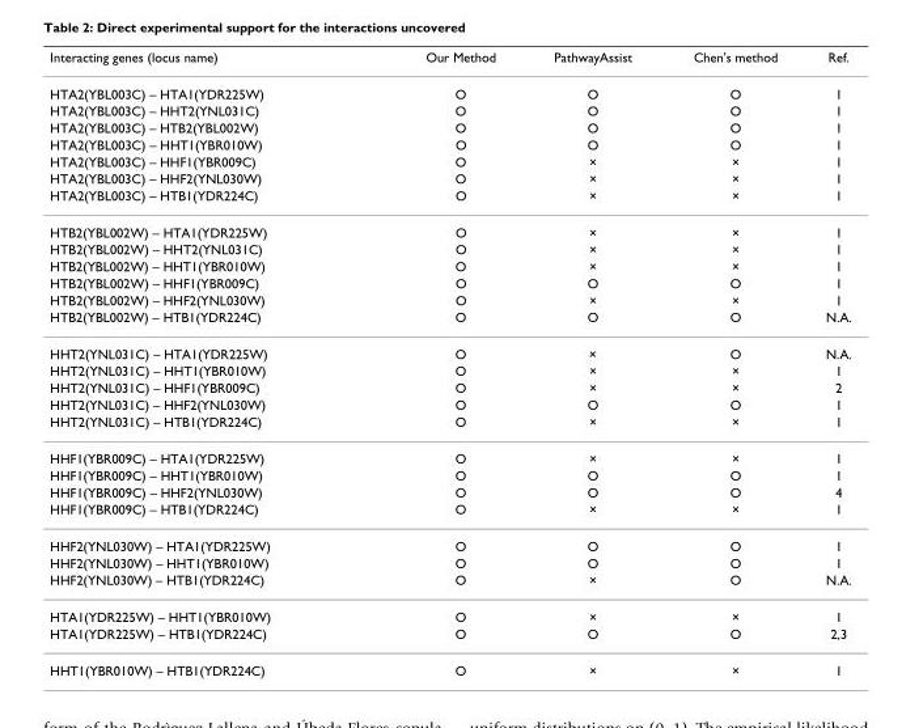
<table><thead><tr><td>Interacting genes (locus name)</td><td>Our Method</td><td>PathwayAssist</td><td>Chen&#x27;s method</td><td>Ref.</td></tr></thead><tbody><tr><td>HTA2(YBL003C) – HTA1(YDR225W)</td><td>O</td><td>O</td><td>O</td><td>1</td></tr><tr><td>HTA2(YBL003C) – HHT2(YNL031C)</td><td>O</td><td>O</td><td>O</td><td>1</td></tr><tr><td>HTA2(YBL003C) – HTB2(YBL002W)</td><td>O</td><td>O</td><td>O</td><td>1</td></tr><tr><td>HTA2(YBL003C) – HHT1(YBR010W)</td><td>O</td><td>O</td><td>O</td><td>1</td></tr><tr><td>HTA2(YBL003C) – HHF1(YBR009C)</td><td>O</td><td>×</td><td>×</td><td>1</td></tr><tr><td>HTA2(YBL003C) – HHF2(YNL030W)</td><td>O</td><td>×</td><td>×</td><td>1</td></tr><tr><td>HTA2(YBL003C) – HTB1(YDR224C)</td><td>O</td><td>×</td><td>×</td><td>1</td></tr><tr><td>HTB2(YBL002W) – HTA1(YDR225W)</td><td>O</td><td>×</td><td>×</td><td>1</td></tr><tr><td>HTB2(YBL002W) – HHT2(YNL031C)</td><td>O</td><td>×</td><td>×</td><td>1</td></tr><tr><td>HTB2(YBL002W) – HHT1(YBR010W)</td><td>O</td><td>×</td><td>×</td><td>1</td></tr><tr><td>HTB2(YBL002W) – HHF1(YBR009C)</td><td>O</td><td>O</td><td>O</td><td>1</td></tr><tr><td>HTB2(YBL002W) – HHF2(YNL030W)</td><td>O</td><td>×</td><td>×</td><td>1</td></tr><tr><td>HTB2(YBL002W) – HTB1(YDR224C)</td><td>O</td><td>O</td><td>O</td><td>N.A.</td></tr><tr><td>HHT2(YNL031C) – HTA1(YDR225W)</td><td>O</td><td>×</td><td>O</td><td>N.A.</td></tr><tr><td>HHT2(YNL031C) – HHT1(YBR010W)</td><td>O</td><td>×</td><td>×</td><td>1</td></tr><tr><td>HHT2(YNL031C) – HHF1(YBR009C)</td><td>O</td><td>×</td><td>×</td><td>2</td></tr><tr><td>HHT2(YNL031C) – HHF2(YNL030W)</td><td>O</td><td>O</td><td>O</td><td>1</td></tr><tr><td>HHT2(YNL031C) – HTB1(YDR224C)</td><td>O</td><td>×</td><td>×</td><td>1</td></tr><tr><td>HHF1(YBR009C) – HTA1(YDR225W)</td><td>O</td><td>×</td><td>×</td><td>1</td></tr><tr><td>HHF1(YBR009C) – HHT1(YBR010W)</td><td>O</td><td>O</td><td>O</td><td>1</td></tr><tr><td>HHF1(YBR009C) – HHF2(YNL030W)</td><td>O</td><td>O</td><td>O</td><td>4</td></tr><tr><td>HHF1(YBR009C) – HTB1(YDR224C)</td><td>O</td><td>×</td><td>×</td><td>1</td></tr><tr><td>HHF2(YNL030W) – HTA1(YDR225W)</td><td>O</td><td>O</td><td>O</td><td>1</td></tr><tr><td>HHF2(YNL030W) – HHT1(YBR010W)</td><td>O</td><td>O</td><td>O</td><td>1</td></tr><tr><td>HHF2(YNL030W) – HTB1(YDR224C)</td><td>O</td><td>×</td><td>O</td><td>N.A.</td></tr><tr><td>HTA1(YDR225W) – HHT1(YBR010W)</td><td>O</td><td>×</td><td>×</td><td>1</td></tr><tr><td>HTA1(YDR225W) – HTB1(YDR224C)</td><td>O</td><td>O</td><td>O</td><td>2,3</td></tr><tr><td>HHT1(YBR010W) – HTB1(YDR224C)</td><td>O</td><td>×</td><td>×</td><td>1</td></tr></tbody></table>